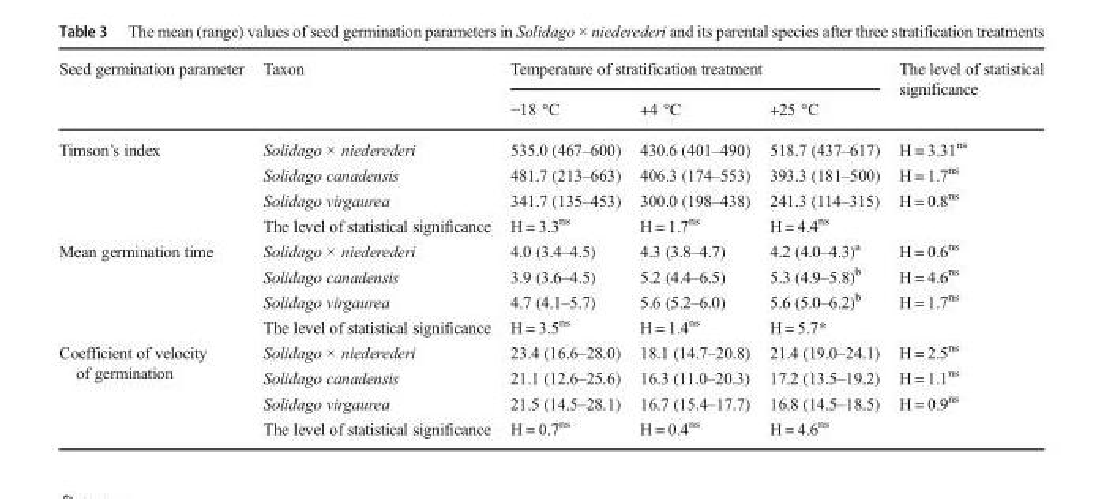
<table><thead><tr><td rowspan="2">Seed germination parameter</td><td rowspan="2">Taxon</td><td colspan="3">Temperature of stratification treatment</td><td rowspan="2">The level of statistical significance</td></tr><tr><td>−18 °C</td><td>+4 °C</td><td>+25 °C</td></tr></thead><tbody><tr><td rowspan="4">Timson’s index</td><td>Solidago × niederederi</td><td>535.0 (467–600)</td><td>430.6 (401–490)</td><td>518.7 (437–617)</td><td>H = 3.31<sup>ns</sup></td></tr><tr><td>Solidago canadensis</td><td>481.7 (213–663)</td><td>406.3 (174–553)</td><td>393.3 (181–500)</td><td>H = 1.7<sup>ns</sup></td></tr><tr><td>Solidago virgaurea</td><td>341.7 (135–453)</td><td>300.0 (198–438)</td><td>241.3 (114–315)</td><td>H = 0.8<sup>ns</sup></td></tr><tr><td>The level of statistical significance</td><td>H = 3.3<sup>ns</sup></td><td>H = 1.7<sup>ns</sup></td><td>H = 4.4<sup>ns</sup></td><td></td></tr><tr><td rowspan="4">Mean germination time</td><td>Solidago × niederederi</td><td>4.0 (3.4–4.5)</td><td>4.3 (3.8–4.7)</td><td>4.2 (4.0–4.3)<sup>a</sup></td><td>H = 0.6<sup>ns</sup></td></tr><tr><td>Solidago canadensis</td><td>3.9 (3.6–4.5)</td><td>5.2 (4.4–6.5)</td><td>5.3 (4.9–5.8)<sup>b</sup></td><td>H = 4.6<sup>ns</sup></td></tr><tr><td>Solidago virgaurea</td><td>4.7 (4.1–5.7)</td><td>5.6 (5.2–6.0)</td><td>5.6 (5.0–6.2)<sup>b</sup></td><td>H = 1.7<sup>ns</sup></td></tr><tr><td>The level of statistical significance</td><td>H = 3.5<sup>ns</sup></td><td>H = 1.4<sup>ns</sup></td><td>H = 5.7*</td><td></td></tr><tr><td rowspan="4">Coefficient of velocity of germination</td><td>Solidago × niederederi</td><td>23.4 (16.6–28.0)</td><td>18.1 (14.7–20.8)</td><td>21.4 (19.0–24.1)</td><td>H = 2.5<sup>ns</sup></td></tr><tr><td>Solidago canadensis</td><td>21.1 (12.6–25.6)</td><td>16.3 (11.0–20.3)</td><td>17.2 (13.5–19.2)</td><td>H = 1.1<sup>ns</sup></td></tr><tr><td>Solidago virgaurea</td><td>21.5 (14.5–28.1)</td><td>16.7 (15.4–17.7)</td><td>16.8 (14.5–18.5)</td><td>H = 0.9<sup>ns</sup></td></tr><tr><td>The level of statistical significance</td><td>H = 0.7<sup>ns</sup></td><td>H = 0.4<sup>ns</sup></td><td>H = 4.6<sup>ns</sup></td><td></td></tr></tbody></table>